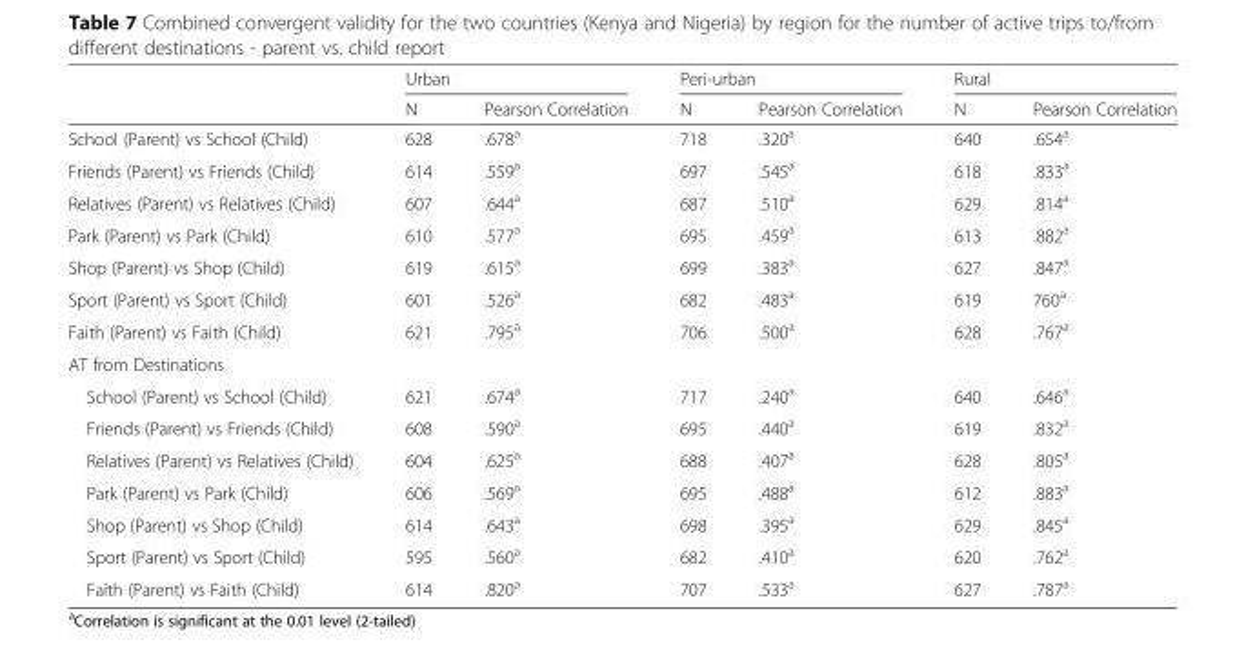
<table><thead><tr><td rowspan="2"></td><td colspan="2">Urban</td><td colspan="2">Peri-urban</td><td colspan="2">Rural</td></tr><tr><td>N</td><td>Pearson Correlation</td><td>N</td><td>Pearson Correlation</td><td>N</td><td>Pearson Correlation</td></tr></thead><tbody><tr><td>School (Parent) vs School (Child)</td><td>628</td><td>.678<sup>a</sup></td><td>718</td><td>.320<sup>a</sup></td><td>640</td><td>.654<sup>a</sup></td></tr><tr><td>Friends (Parent) vs Friends (Child)</td><td>614</td><td>.559<sup>a</sup></td><td>697</td><td>.545<sup>a</sup></td><td>618</td><td>.833<sup>a</sup></td></tr><tr><td>Relatives (Parent) vs Relatives (Child)</td><td>607</td><td>.644<sup>a</sup></td><td>687</td><td>.510<sup>a</sup></td><td>629</td><td>.814<sup>a</sup></td></tr><tr><td>Park (Parent) vs Park (Child)</td><td>610</td><td>.577<sup>a</sup></td><td>695</td><td>.459<sup>a</sup></td><td>613</td><td>.882<sup>a</sup></td></tr><tr><td>Shop (Parent) vs Shop (Child)</td><td>619</td><td>.615<sup>a</sup></td><td>699</td><td>.383<sup>a</sup></td><td>627</td><td>.847<sup>a</sup></td></tr><tr><td>Sport (Parent) vs Sport (Child)</td><td>601</td><td>.526<sup>a</sup></td><td>682</td><td>.483<sup>a</sup></td><td>619</td><td>760<sup>a</sup></td></tr><tr><td>Faith (Parent) vs Faith (Child)</td><td>621</td><td>.795<sup>a</sup></td><td>706</td><td>.500<sup>a</sup></td><td>628</td><td>.767<sup>a</sup></td></tr><tr><td colspan="7">AT from Destinations</td></tr><tr><td>School (Parent) vs School (Child)</td><td>621</td><td>.674<sup>a</sup></td><td>717</td><td>.240<sup>a</sup></td><td>640</td><td>.646<sup>a</sup></td></tr><tr><td>Friends (Parent) vs Friends (Child)</td><td>608</td><td>.590<sup>a</sup></td><td>695</td><td>.440<sup>a</sup></td><td>619</td><td>.832<sup>a</sup></td></tr><tr><td>Relatives (Parent) vs Relatives (Child)</td><td>604</td><td>.625<sup>a</sup></td><td>688</td><td>.407<sup>a</sup></td><td>628</td><td>.805<sup>a</sup></td></tr><tr><td>Park (Parent) vs Park (Child)</td><td>606</td><td>.569<sup>a</sup></td><td>695</td><td>.488<sup>a</sup></td><td>612</td><td>.883<sup>a</sup></td></tr><tr><td>Shop (Parent) vs Shop (Child)</td><td>614</td><td>.643<sup>a</sup></td><td>698</td><td>.395<sup>a</sup></td><td>629</td><td>.845<sup>a</sup></td></tr><tr><td>Sport (Parent) vs Sport (Child)</td><td>595</td><td>.560<sup>a</sup></td><td>682</td><td>.410<sup>a</sup></td><td>620</td><td>.762<sup>a</sup></td></tr><tr><td>Faith (Parent) vs Faith (Child)</td><td>614</td><td>.820<sup>a</sup></td><td>707</td><td>.533<sup>a</sup></td><td>627</td><td>.787<sup>a</sup></td></tr></tbody></table>